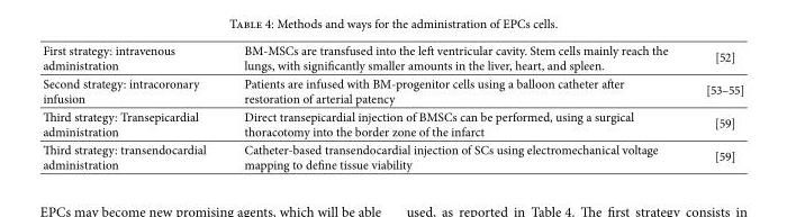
<table><tbody><tr><td>First strategy: intravenous administration</td><td>BM-MSCs are transfused into the left ventricular cavity. Stem cells mainly reach the lungs, with significantly smaller amounts in the liver, heart, and spleen.</td><td>[52]</td></tr><tr><td>Second strategy: intracoronary infusion</td><td>Patients are infused with BM-progenitor cells using a balloon catheter after restoration of arterial patency</td><td>[53–55]</td></tr><tr><td>Third strategy: Transepicardial administration</td><td>Direct transepicardial injection of BMSCs can be performed, using a surgical thoracotomy into the border zone of the infarct</td><td>[59]</td></tr><tr><td>Third strategy: transendocardial administration</td><td>Catheter-based transendocardial injection of SCs using electromechanical voltage mapping to define tissue viability</td><td>[59]</td></tr></tbody></table>